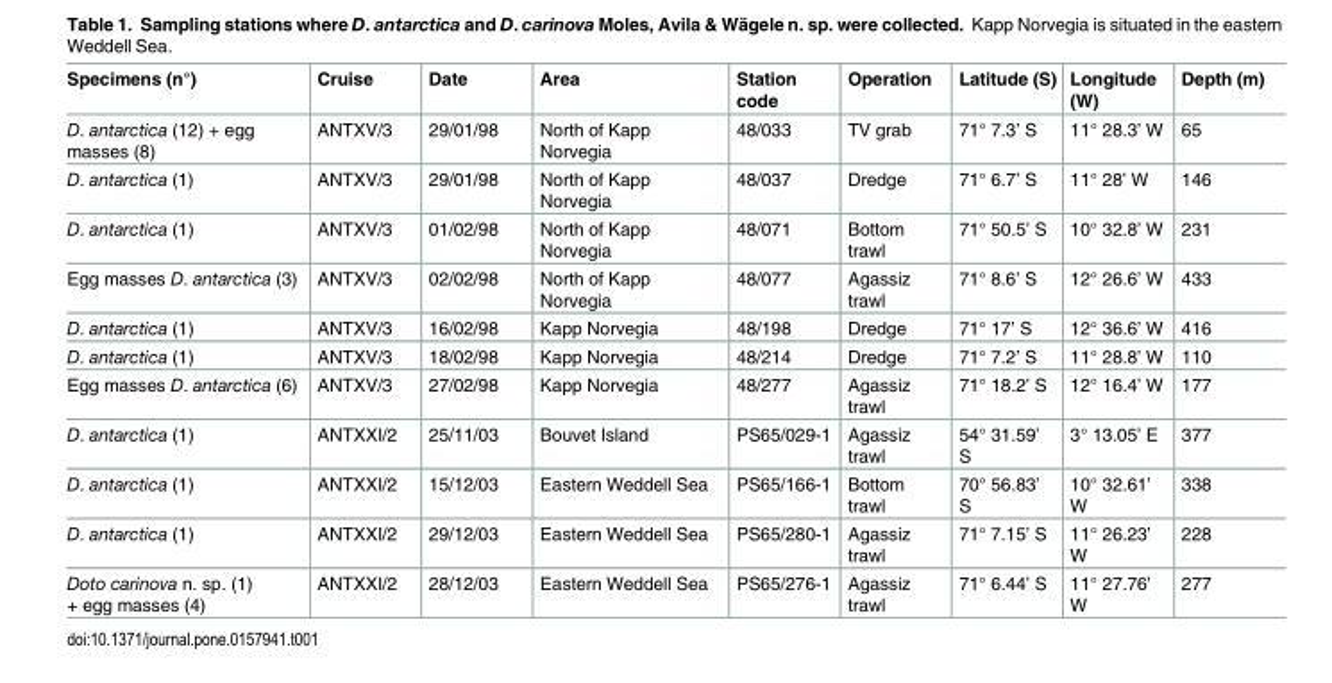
<table><thead><tr><td>Specimens (n°)</td><td>Cruise</td><td>Date</td><td>Area</td><td>Station code</td><td>Operation</td><td>Latitude (S)</td><td>Longitude (W)</td><td>Depth (m)</td></tr></thead><tbody><tr><td>D. antarctica (12) + egg masses (8)</td><td>ANTXV/3</td><td>29/01/98</td><td>North of Kapp Norvegia</td><td>48/033</td><td>TV grab</td><td>71° 7.3’ S</td><td>11° 28.3’ W</td><td>65</td></tr><tr><td>D. antarctica (1)</td><td>ANTXV/3</td><td>29/01/98</td><td>North of Kapp Norvegia</td><td>48/037</td><td>Dredge</td><td>71° 6.7’ S</td><td>11° 28’ W</td><td>146</td></tr><tr><td>D. antarctica (1)</td><td>ANTXV/3</td><td>01/02/98</td><td>North of Kapp Norvegia</td><td>48/071</td><td>Bottom trawl</td><td>71° 50.5’ S</td><td>10° 32.8’ W</td><td>231</td></tr><tr><td>Egg masses D. antarctica (3)</td><td>ANTXV/3</td><td>02/02/98</td><td>North of Kapp Norvegia</td><td>48/077</td><td>Agassiz trawl</td><td>71° 8.6’ S</td><td>12° 26.6’ W</td><td>433</td></tr><tr><td>D. antarctica (1)</td><td>ANTXV/3</td><td>16/02/98</td><td>Kapp Norvegia</td><td>48/198</td><td>Dredge</td><td>71° 17’ S</td><td>12° 36.6’ W</td><td>416</td></tr><tr><td>D. antarctica (1)</td><td>ANTXV/3</td><td>18/02/98</td><td>Kapp Norvegia</td><td>48/214</td><td>Dredge</td><td>71° 7.2’ S</td><td>11° 28.8’ W</td><td>110</td></tr><tr><td>Egg masses D. antarctica (6)</td><td>ANTXV/3</td><td>27/02/98</td><td>Kapp Norvegia</td><td>48/277</td><td>Agassiz trawl</td><td>71° 18.2’ S</td><td>12° 16.4’ W</td><td>177</td></tr><tr><td>D. antarctica (1)</td><td>ANTXXI/2</td><td>25/11/03</td><td>Bouvet Island</td><td>PS65/029-1</td><td>Agassiz trawl</td><td>54° 31.59’ S</td><td>3° 13.05’ E</td><td>377</td></tr><tr><td>D. antarctica (1)</td><td>ANTXXI/2</td><td>15/12/03</td><td>Eastern Weddell Sea</td><td>PS65/166-1</td><td>Bottom trawl</td><td>70° 56.83’ S</td><td>10° 32.61’ W</td><td>338</td></tr><tr><td>D. antarctica (1)</td><td>ANTXXI/2</td><td>29/12/03</td><td>Eastern Weddell Sea</td><td>PS65/280-1</td><td>Agassiz trawl</td><td>71° 7.15’ S</td><td>11° 26.23’ W</td><td>228</td></tr><tr><td>Doto carinova n. sp. (1) + egg masses (4)</td><td>ANTXXI/2</td><td>28/12/03</td><td>Eastern Weddell Sea</td><td>PS65/276-1</td><td>Agassiz trawl</td><td>71° 6.44’ S</td><td>11° 27.76’ W</td><td>277</td></tr></tbody></table>